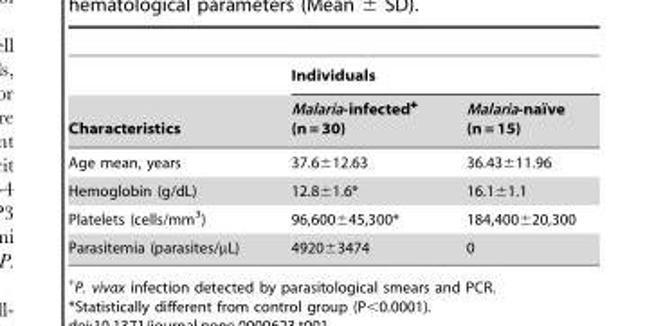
<table><thead><tr><td rowspan="2">Characteristics</td><td colspan="2">Individuals</td></tr><tr><td>Malaria-infected+ (n = 30)</td><td>Malaria-naı¨ve (n = 15)</td></tr></thead><tbody><tr><td>Age mean, years</td><td>37.6±12.63</td><td>36.43±11.96</td></tr><tr><td>Hemoglobin (g/dL)</td><td>12.8±1.6*</td><td>16.1±1.1</td></tr><tr><td>Platelets (cells/mm<sup>3</sup>)</td><td>96,600±45,300*</td><td>184,400±20,300</td></tr><tr><td>Parasitemia (parasites/µL)</td><td>4920±3474</td><td>0</td></tr></tbody></table>